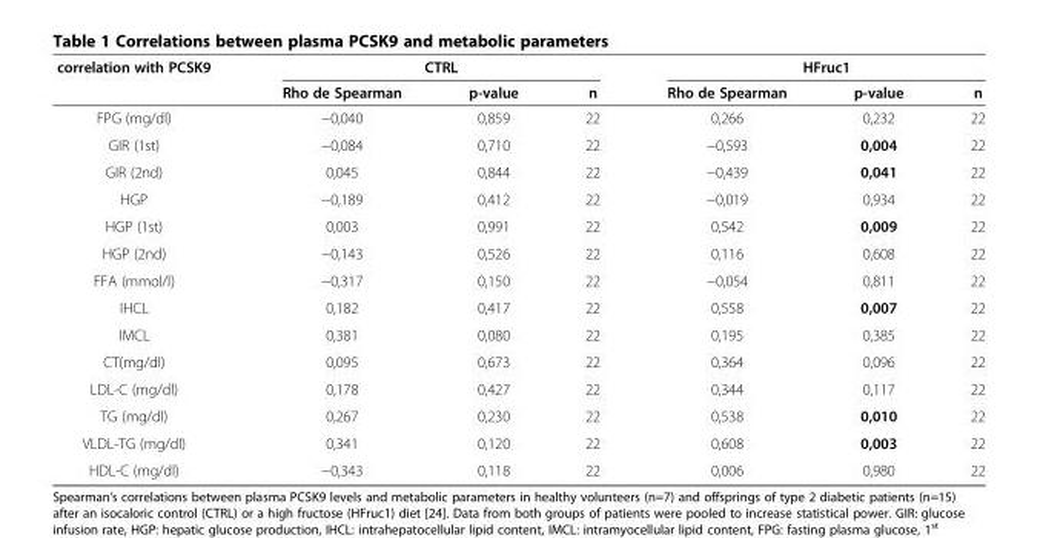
<table><thead><tr><td rowspan="2">correlation with PCSK9</td><td colspan="3">CTRL</td><td colspan="3">HFruc1</td></tr><tr><td>Rho de Spearman</td><td>p-value</td><td>n</td><td>Rho de Spearman</td><td>p-value</td><td>n</td></tr></thead><tbody><tr><td>FPG (mg/dl)</td><td>−0,040</td><td>0,859</td><td>22</td><td>0,266</td><td>0,232</td><td>22</td></tr><tr><td>GIR (1st)</td><td>−0,084</td><td>0,710</td><td>22</td><td>−0,593</td><td>0,004</td><td>22</td></tr><tr><td>GIR (2nd)</td><td>0,045</td><td>0,844</td><td>22</td><td>−0,439</td><td>0,041</td><td>22</td></tr><tr><td>HGP</td><td>−0,189</td><td>0,412</td><td>22</td><td>−0,019</td><td>0,934</td><td>22</td></tr><tr><td>HGP (1st)</td><td>0,003</td><td>0,991</td><td>22</td><td>0,542</td><td>0,009</td><td>22</td></tr><tr><td>HGP (2nd)</td><td>−0,143</td><td>0,526</td><td>22</td><td>0,116</td><td>0,608</td><td>22</td></tr><tr><td>FFA (mmol/l)</td><td>−0,317</td><td>0,150</td><td>22</td><td>−0,054</td><td>0,811</td><td>22</td></tr><tr><td>IHCL</td><td>0,182</td><td>0,417</td><td>22</td><td>0,558</td><td>0,007</td><td>22</td></tr><tr><td>IMCL</td><td>0,381</td><td>0,080</td><td>22</td><td>0,195</td><td>0,385</td><td>22</td></tr><tr><td>CT(mg/dl)</td><td>0,095</td><td>0,673</td><td>22</td><td>0,364</td><td>0,096</td><td>22</td></tr><tr><td>LDL-C (mg/dl)</td><td>0,178</td><td>0,427</td><td>22</td><td>0,344</td><td>0,117</td><td>22</td></tr><tr><td>TG (mg/dl)</td><td>0,267</td><td>0,230</td><td>22</td><td>0,538</td><td>0,010</td><td>22</td></tr><tr><td>VLDL-TG (mg/dl)</td><td>0,341</td><td>0,120</td><td>22</td><td>0,608</td><td>0,003</td><td>22</td></tr><tr><td>HDL-C (mg/dl)</td><td>−0,343</td><td>0,118</td><td>22</td><td>0,006</td><td>0,980</td><td>22</td></tr></tbody></table>